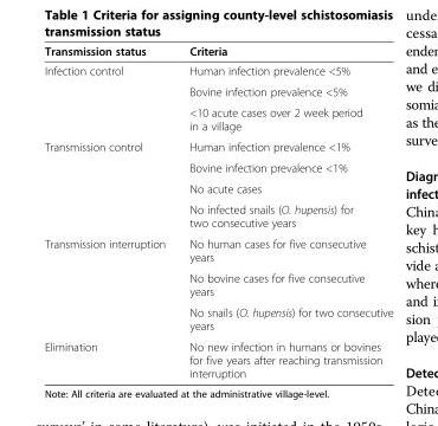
<table><thead><tr><td>Transmission status</td><td>Criteria</td></tr></thead><tbody><tr><td rowspan="3">Infection control</td><td>Human infection prevalence &lt;5%</td></tr><tr><td>Bovine infection prevalence &lt;5%</td></tr><tr><td>&lt;10 acute cases over 2 week period in a village</td></tr><tr><td rowspan="4">Transmission control</td><td>Human infection prevalence &lt;1%</td></tr><tr><td>Bovine infection prevalence &lt;1%</td></tr><tr><td>No acute cases</td></tr><tr><td>No infected snails (O. hupensis) for two consecutive years</td></tr><tr><td rowspan="3">Transmission interruption</td><td>No human cases for five consecutive years</td></tr><tr><td>No bovine cases for five consecutive years</td></tr><tr><td>No snails (O. hupensis) for two consecutive years</td></tr><tr><td>Elimination</td><td>No new infection in humans or bovines for five years after reaching transmission interruption</td></tr></tbody></table>